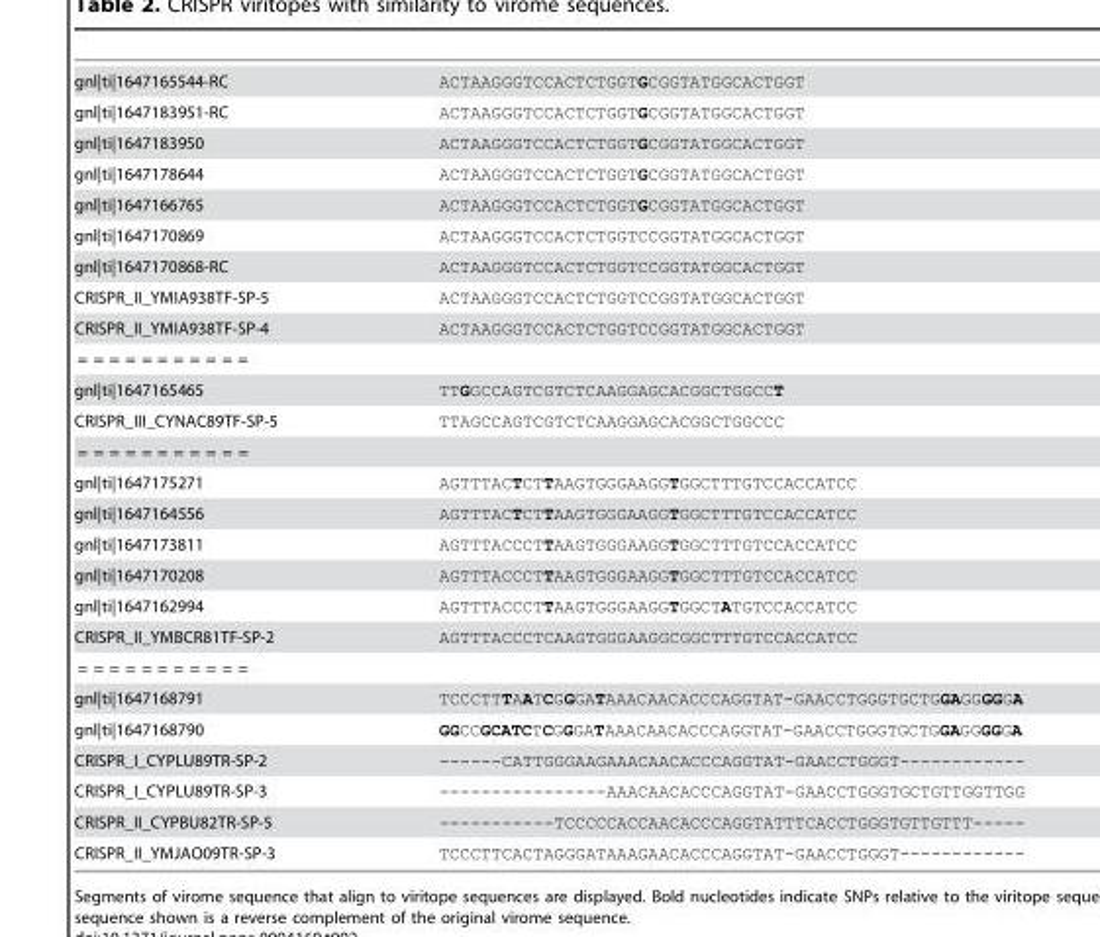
<table><tbody><tr><td>gnl|ti|1647165544-RC</td><td>ACTAAGGGTCCACTCTGGTGCGGTATGGCACTGGT</td></tr><tr><td>gnl|ti|1647183951-RC</td><td>ACTAAGGGTCCACTCTGGTGCGGTATGGCACTGGT</td></tr><tr><td>gnl|ti|1647183950</td><td>ACTAAGGGTCCACTCTGGTGCGGTATGGCACTGGT</td></tr><tr><td>gnl|ti|1647178644</td><td>ACTAAGGGTCCACTCTGGTGCGGTATGGCACTGGT</td></tr><tr><td>gnl|ti|1647166765</td><td>ACTAAGGGTCCACTCTGGTGCGGTATGGCACTGGT</td></tr><tr><td>gnl|ti|1647170869</td><td>ACTAAGGGTCCACTCTGGTCCGGTATGGCACTGGT</td></tr><tr><td>gnl|ti|1647170868-RC</td><td>ACTAAGGGTCCACTCTGGTCCGGTATGGCACTGGT</td></tr><tr><td>CRISPR_II_YMIA938TF-SP-5</td><td>ACTAAGGGTCCACTCTGGTCCGGTATGGCACTGGT</td></tr><tr><td>CRISPR_II_YMIA938TF-SP-4</td><td>ACTAAGGGTCCACTCTGGTCCGGTATGGCACTGGT</td></tr><tr><td colspan="2">= = = = = = = = = = =</td></tr><tr><td>gnl|ti|1647165465</td><td>TTGGCCAGTCGTCTCAAGGAGCACGGCTGGCCT</td></tr><tr><td>CRISPR_III_CYNAC89TF-SP-5</td><td>TTAGCCAGTCGTCTCAAGGAGCACGGCTGGCCC</td></tr><tr><td colspan="2">= = = = = = = = = = =</td></tr><tr><td>gnl|ti|1647175271</td><td>AGTTTACTCTTAAGTGGGAAGGTGGCTTTGTCCACCATCC</td></tr><tr><td>gnl|ti|1647164556</td><td>AGTTTACTCTTAAGTGGGAAGGTGGCTTTGTCCACCATCC</td></tr><tr><td>gnl|ti|1647173811</td><td>AGTTTACCCTTAAGTGGGAAGGTGGCTTTGTCCACCATCC</td></tr><tr><td>gnl|ti|1647170208</td><td>AGTTTACCCTTAAGTGGGAAGGTGGCTTTGTCCACCATCC</td></tr><tr><td>gnl|ti|1647162994</td><td>AGTTTACCCTTAAGTGGGAAGGTGGCTATGTCCACCATCC</td></tr><tr><td>CRISPR_II_YMBCR81TF-SP-2</td><td>AGTTTACCCTCAAGTGGGAAGGCGGCTTTGTCCACCATCC</td></tr><tr><td colspan="2">= = = = = = = = = = =</td></tr><tr><td>gnl|ti|1647168791</td><td>TCCCTTTAATCGGGATAAACAACACCCAGGTAT-GAACCTGGGTGCTGGAGGGGGA</td></tr><tr><td>gnl|ti|1647168790</td><td>GGCCGCATCTCGGGATAAACAACACCCAGGTAT-GAACCTGGGTGCTGGAGGGGGA</td></tr><tr><td>CRISPR_I_CYPLU89TR-SP-2</td><td>------CATTGGGAAGAAACAACACCCAGGTAT-GAACCTGGGT------------</td></tr><tr><td>CRISPR_I_CYPLU89TR-SP-3</td><td>----------------AAACAACACCCAGGTAT-GAACCTGGGTGCTGTTGGTTGG</td></tr><tr><td>CRISPR_II_CYPBU82TR-SP-5</td><td>-----------TCCCCCACCAACACCCAGGTATTTCACCTGGGTGTTGTTT-----</td></tr><tr><td>CRISPR_II_YMJAO09TR-SP-3</td><td>TCCCTTCACTAGGGATAAAGAACACCCAGGTAT-GAACCTGGGT------------</td></tr></tbody></table>